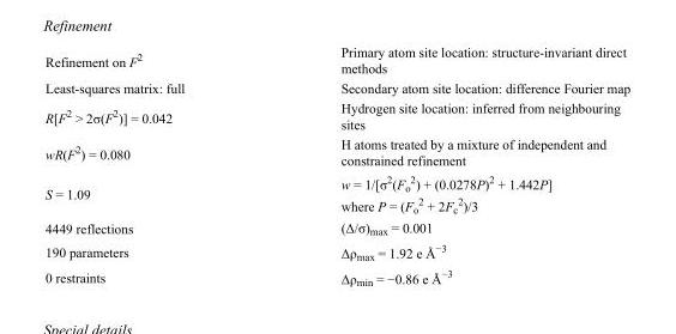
<table><tbody><tr><td>Refinement on F<sup>2</sup></td><td>Primary atom site location: structure-invariant direct methods</td></tr><tr><td>Least-squares matrix: full</td><td>Secondary atom site location: difference Fourier map</td></tr><tr><td>R[F<sup>2</sup> &gt; 2σ(F<sup>2</sup>)] = 0.042</td><td>Hydrogen site location: inferred from neighbouring sites</td></tr><tr><td>wR(F<sup>2</sup>) = 0.080</td><td>H atoms treated by a mixture of independent and constrained refinement</td></tr><tr><td>S = 1.09</td><td>w = 1/[σ<sup>2</sup>(F<sub>o</sub> <sup>2</sup>) + (0.0278P)<sup>2</sup> + 1.442P] where P = (F<sub>o</sub> <sup>2</sup> + 2F<sub>c</sub> <sup>2</sup>)/3</td></tr><tr><td>4449 reflections</td><td>(Δ/σ)<sub>max</sub> = 0.001</td></tr><tr><td>190 parameters</td><td>Δρ<sub>max</sub> = 1.92 e Å<sup>−3</sup></td></tr><tr><td>0 restraints</td><td>Δρ<sub>min</sub> = −0.86 e Å<sup>−3</sup></td></tr></tbody></table>